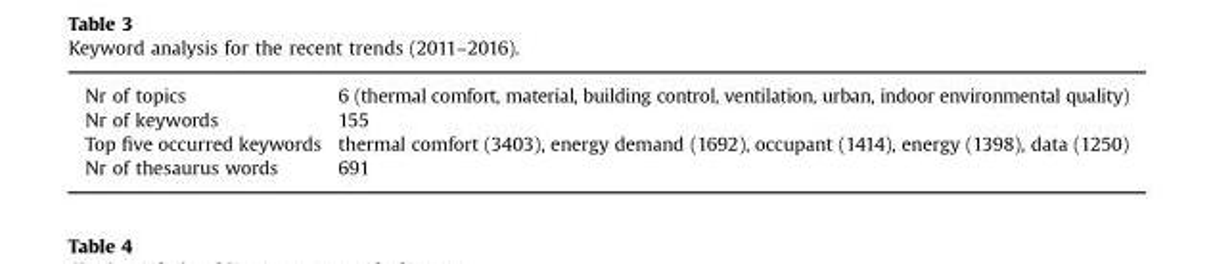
<table><tbody><tr><td>Nr of topics</td><td>6 (thermal comfort, material, building control, ventilation, urban, indoor environmental quality)</td></tr><tr><td>Nr of keywords</td><td>155</td></tr><tr><td>Top five occurred keywords</td><td>thermal comfort (3403), energy demand (1692), occupant (1414), energy (1398), data (1250)</td></tr><tr><td>Nr of thesaurus words</td><td>691</td></tr></tbody></table>